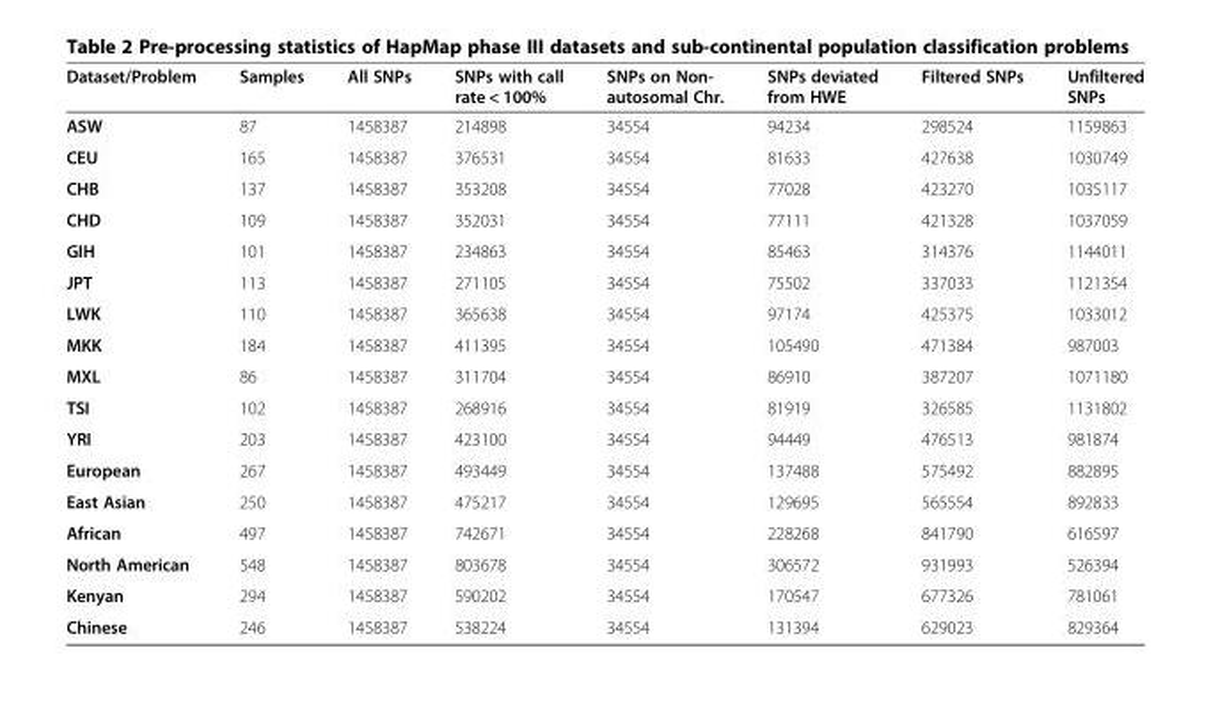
<table><thead><tr><td>Dataset/Problem</td><td>Samples</td><td>All SNPs</td><td>SNPs with call rate &lt; 100%</td><td>SNPs on Non- autosomal Chr.</td><td>SNPs deviated from HWE</td><td>Filtered SNPs</td><td>Unfiltered SNPs</td></tr></thead><tbody><tr><td>ASW</td><td>87</td><td>1458387</td><td>214898</td><td>34554</td><td>94234</td><td>298524</td><td>1159863</td></tr><tr><td>CEU</td><td>165</td><td>1458387</td><td>376531</td><td>34554</td><td>81633</td><td>427638</td><td>1030749</td></tr><tr><td>CHB</td><td>137</td><td>1458387</td><td>353208</td><td>34554</td><td>77028</td><td>423270</td><td>1035117</td></tr><tr><td>CHD</td><td>109</td><td>1458387</td><td>352031</td><td>34554</td><td>77111</td><td>421328</td><td>1037059</td></tr><tr><td>GIH</td><td>101</td><td>1458387</td><td>234863</td><td>34554</td><td>85463</td><td>314376</td><td>1144011</td></tr><tr><td>JPT</td><td>113</td><td>1458387</td><td>271105</td><td>34554</td><td>75502</td><td>337033</td><td>1121354</td></tr><tr><td>LWK</td><td>110</td><td>1458387</td><td>365638</td><td>34554</td><td>97174</td><td>425375</td><td>1033012</td></tr><tr><td>MKK</td><td>184</td><td>1458387</td><td>411395</td><td>34554</td><td>105490</td><td>471384</td><td>987003</td></tr><tr><td>MXL</td><td>86</td><td>1458387</td><td>311704</td><td>34554</td><td>86910</td><td>387207</td><td>1071180</td></tr><tr><td>TSI</td><td>102</td><td>1458387</td><td>268916</td><td>34554</td><td>81919</td><td>326585</td><td>1131802</td></tr><tr><td>YRI</td><td>203</td><td>1458387</td><td>423100</td><td>34554</td><td>94449</td><td>476513</td><td>981874</td></tr><tr><td>European</td><td>267</td><td>1458387</td><td>493449</td><td>34554</td><td>137488</td><td>575492</td><td>882895</td></tr><tr><td>East Asian</td><td>250</td><td>1458387</td><td>475217</td><td>34554</td><td>129695</td><td>565554</td><td>892833</td></tr><tr><td>African</td><td>497</td><td>1458387</td><td>742671</td><td>34554</td><td>228268</td><td>841790</td><td>616597</td></tr><tr><td>North American</td><td>548</td><td>1458387</td><td>803678</td><td>34554</td><td>306572</td><td>931993</td><td>526394</td></tr><tr><td>Kenyan</td><td>294</td><td>1458387</td><td>590202</td><td>34554</td><td>170547</td><td>677326</td><td>781061</td></tr><tr><td>Chinese</td><td>246</td><td>1458387</td><td>538224</td><td>34554</td><td>131394</td><td>629023</td><td>829364</td></tr></tbody></table>